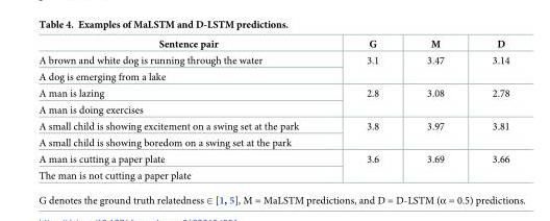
<table><thead><tr><td>Sentence pair</td><td>G</td><td>M</td><td>D</td></tr></thead><tbody><tr><td>A brown and white dog is running through the water</td><td rowspan="2">3.1</td><td rowspan="2">3.47</td><td rowspan="2">3.14</td></tr><tr><td>A dog is emerging from a lake</td></tr><tr><td>A man is lazing</td><td rowspan="2">2.8</td><td rowspan="2">3.08</td><td rowspan="2">2.78</td></tr><tr><td>A man is doing exercises</td></tr><tr><td>A small child is showing excitement on a swing set at the park</td><td rowspan="2">3.8</td><td rowspan="2">3.97</td><td rowspan="2">3.81</td></tr><tr><td>A small child is showing boredom on a swing set at the park</td></tr><tr><td>A man is cutting a paper plate</td><td rowspan="2">3.6</td><td rowspan="2">3.69</td><td rowspan="2">3.66</td></tr><tr><td>The man is not cutting a paper plate</td></tr></tbody></table>